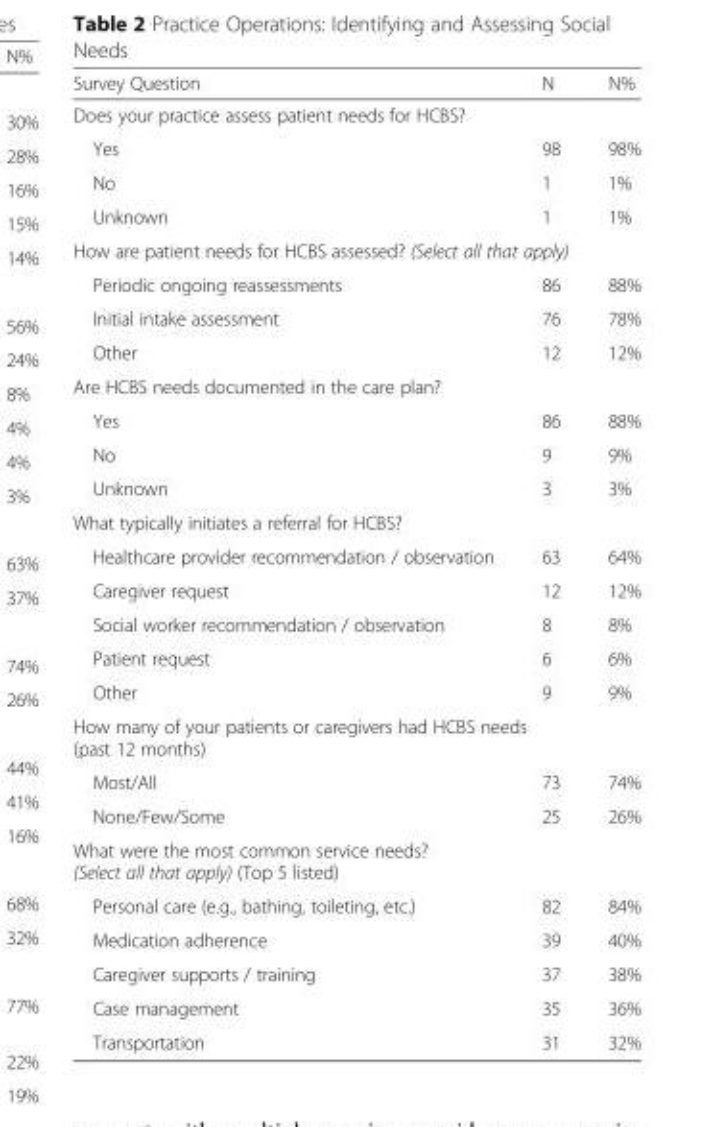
<table><thead><tr><td>Survey Question</td><td>N</td><td>N%</td></tr></thead><tbody><tr><td colspan="3">Does your practice assess patient needs for HCBS?</td></tr><tr><td>Yes</td><td>98</td><td>98%</td></tr><tr><td>No</td><td>1</td><td>1%</td></tr><tr><td>Unknown</td><td>1</td><td>1%</td></tr><tr><td colspan="3">How are patient needs for HCBS assessed? (Select all that apply)</td></tr><tr><td>Periodic ongoing reassessments</td><td>86</td><td>88%</td></tr><tr><td>Initial intake assessment</td><td>76</td><td>78%</td></tr><tr><td>Other</td><td>12</td><td>12%</td></tr><tr><td colspan="3">Are HCBS needs documented in the care plan?</td></tr><tr><td>Yes</td><td>86</td><td>88%</td></tr><tr><td>No</td><td>9</td><td>9%</td></tr><tr><td>Unknown</td><td>3</td><td>3%</td></tr><tr><td colspan="3">What typically initiates a referral for HCBS?</td></tr><tr><td>Healthcare provider recommendation / observation</td><td>63</td><td>64%</td></tr><tr><td>Caregiver request</td><td>12</td><td>12%</td></tr><tr><td>Social worker recommendation / observation</td><td>8</td><td>8%</td></tr><tr><td>Patient request</td><td>6</td><td>6%</td></tr><tr><td>Other</td><td>9</td><td>9%</td></tr><tr><td colspan="3">How many of your patients or caregivers had HCBS needs (past 12 months)</td></tr><tr><td>Most/All</td><td>73</td><td>74%</td></tr><tr><td>None/Few/Some</td><td>25</td><td>26%</td></tr><tr><td colspan="3">What were the most common service needs? (Select all that apply) (Top 5 listed)</td></tr><tr><td>Personal care (e.g., bathing, toileting, etc.)</td><td>82</td><td>84%</td></tr><tr><td>Medication adherence</td><td>39</td><td>40%</td></tr><tr><td>Caregiver supports / training</td><td>37</td><td>38%</td></tr><tr><td>Case management</td><td>35</td><td>36%</td></tr><tr><td>Transportation</td><td>31</td><td>32%</td></tr></tbody></table>